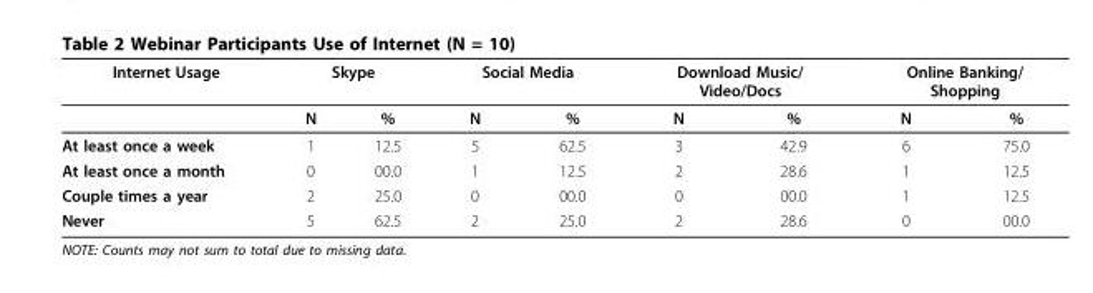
<table><thead><tr><td rowspan="2">Internet Usage</td><td colspan="2">Skype</td><td colspan="2">Social Media</td><td colspan="2">Download Music/ Video/Docs</td><td colspan="2">Online Banking/ Shopping</td></tr><tr><td>N</td><td>%</td><td>N</td><td>%</td><td>N</td><td>%</td><td>N</td><td>%</td></tr></thead><tbody><tr><td>At least once a week</td><td>1</td><td>12.5</td><td>5</td><td>62.5</td><td>3</td><td>42.9</td><td>6</td><td>75.0</td></tr><tr><td>At least once a month</td><td>0</td><td>00.0</td><td>1</td><td>12.5</td><td>2</td><td>28.6</td><td>1</td><td>12.5</td></tr><tr><td>Couple times a year</td><td>2</td><td>25.0</td><td>0</td><td>00.0</td><td>0</td><td>00.0</td><td>1</td><td>12.5</td></tr><tr><td>Never</td><td>5</td><td>62.5</td><td>2</td><td>25.0</td><td>2</td><td>28.6</td><td>0</td><td>00.0</td></tr></tbody></table>